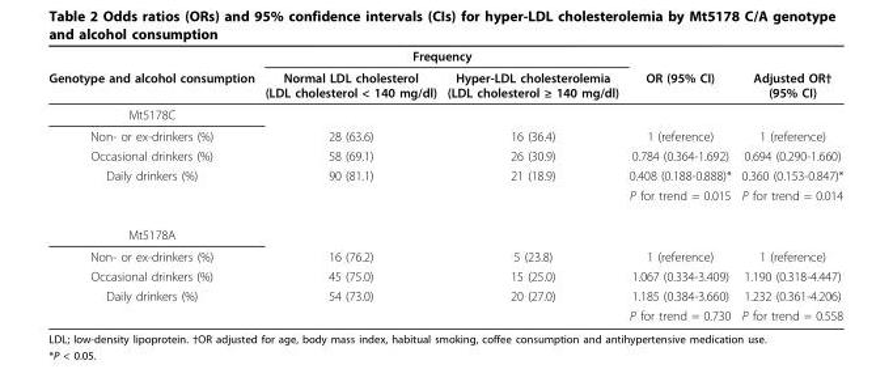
<table><thead><tr><td rowspan="2">Genotype and alcohol consumption</td><td colspan="2">Frequency</td><td rowspan="2">OR (95% CI)</td><td rowspan="2">Adjusted OR† (95% CI)</td></tr><tr><td>Normal LDL cholesterol (LDL cholesterol &lt; 140 mg/dl)</td><td>Hyper-LDL cholesterolemia (LDL cholesterol ≥ 140 mg/dl)</td></tr></thead><tbody><tr><td colspan="5">Mt5178C</td></tr><tr><td>Non- or ex-drinkers (%)</td><td>28 (63.6)</td><td>16 (36.4)</td><td>1 (reference)</td><td>1 (reference)</td></tr><tr><td>Occasional drinkers (%)</td><td>58 (69.1)</td><td>26 (30.9)</td><td>0.784 (0.364-1.692)</td><td>0.694 (0.290-1.660)</td></tr><tr><td rowspan="2">Daily drinkers (%)</td><td>90 (81.1)</td><td>21 (18.9)</td><td>0.408 (0.188-0.888)*</td><td>0.360 (0.153-0.847)*</td></tr><tr><td></td><td></td><td>P for trend = 0.015</td><td>P for trend = 0.014</td></tr><tr><td colspan="5">Mt5178A</td></tr><tr><td>Non- or ex-drinkers (%)</td><td>16 (76.2)</td><td>5 (23.8)</td><td>1 (reference)</td><td>1 (reference)</td></tr><tr><td>Occasional drinkers (%)</td><td>45 (75.0)</td><td>15 (25.0)</td><td>1.067 (0.334-3.409)</td><td>1.190 (0.318-4.447)</td></tr><tr><td rowspan="2">Daily drinkers (%)</td><td>54 (73.0)</td><td>20 (27.0)</td><td>1.185 (0.384-3.660)</td><td>1.232 (0.361-4.206)</td></tr><tr><td></td><td></td><td>P for trend = 0.730</td><td>P for trend = 0.558</td></tr></tbody></table>